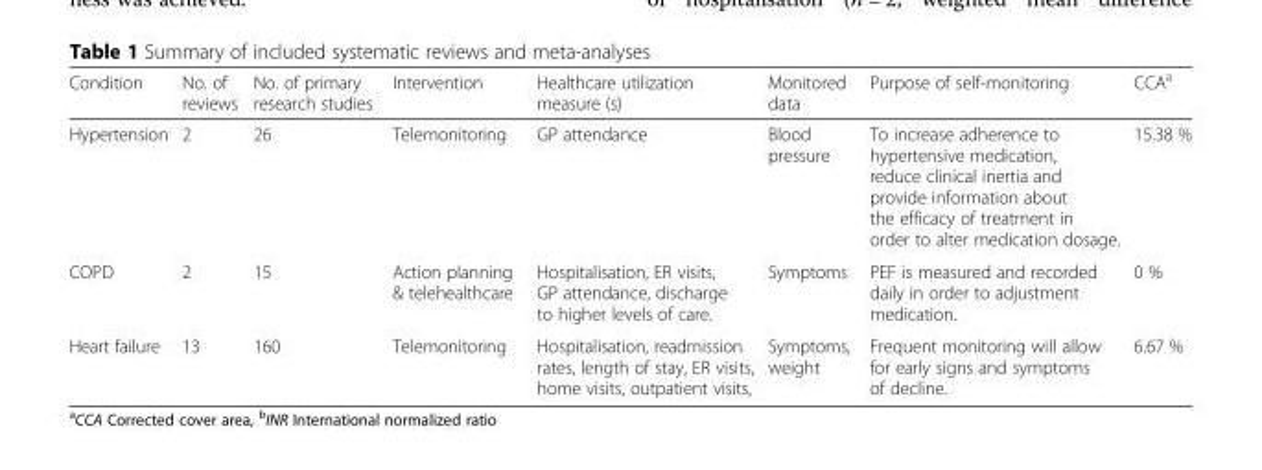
<table><thead><tr><td>Condition</td><td>No. of reviews</td><td>No. of primary research studies</td><td>Intervention</td><td>Healthcare utilization measure (s)</td><td>Monitored data</td><td>Purpose of self-monitoring</td><td>CCA<sup>a</sup></td></tr></thead><tbody><tr><td>Hypertension</td><td>2</td><td>26</td><td>Telemonitoring</td><td>GP attendance</td><td>Blood pressure</td><td>To increase adherence to hypertensive medication, reduce clinical inertia and provide information about the efficacy of treatment in order to alter medication dosage.</td><td>15.38 %</td></tr><tr><td>COPD</td><td>2</td><td>15</td><td>Action planning &amp; telehealthcare</td><td>Hospitalisation, ER visits, GP attendance, discharge to higher levels of care.</td><td>Symptoms</td><td>PEF is measured and recorded daily in order to adjustment medication.</td><td>0 %</td></tr><tr><td>Heart failure</td><td>13</td><td>160</td><td>Telemonitoring</td><td>Hospitalisation, readmission rates, length of stay, ER visits, home visits, outpatient visits,</td><td>Symptoms, weight</td><td>Frequent monitoring will allow for early signs and symptoms of decline.</td><td>6.67 %</td></tr></tbody></table>